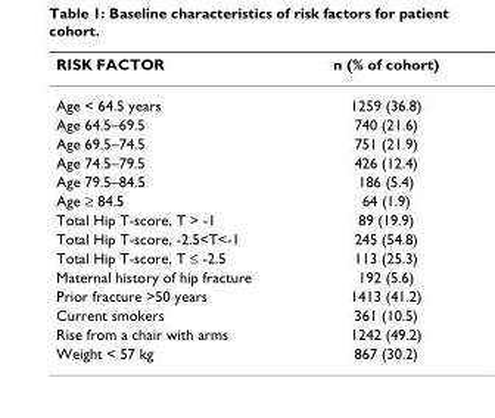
<table><thead><tr><td>RISK FACTOR</td><td>n (% of cohort)</td></tr></thead><tbody><tr><td>Age &lt; 64.5 years</td><td>1259 (36.8)</td></tr><tr><td>Age 64.5–69.5</td><td>740 (21.6)</td></tr><tr><td>Age 69.5–74.5</td><td>751 (21.9)</td></tr><tr><td>Age 74.5–79.5</td><td>426 (12.4)</td></tr><tr><td>Age 79.5–84.5</td><td>186 (5.4)</td></tr><tr><td>Age ≥ 84.5</td><td>64 (1.9)</td></tr><tr><td>Total Hip T-score, T &gt; -1</td><td>89 (19.9)</td></tr><tr><td>Total Hip T-score, -2.5&lt;T&lt;-1</td><td>245 (54.8)</td></tr><tr><td>Total Hip T-score, T ≤ -2.5</td><td>113 (25.3)</td></tr><tr><td>Maternal history of hip fracture</td><td>192 (5.6)</td></tr><tr><td>Prior fracture &gt;50 years</td><td>1413 (41.2)</td></tr><tr><td>Current smokers</td><td>361 (10.5)</td></tr><tr><td>Rise from a chair with arms</td><td>1242 (49.2)</td></tr><tr><td>Weight &lt; 57 kg</td><td>867 (30.2)</td></tr></tbody></table>